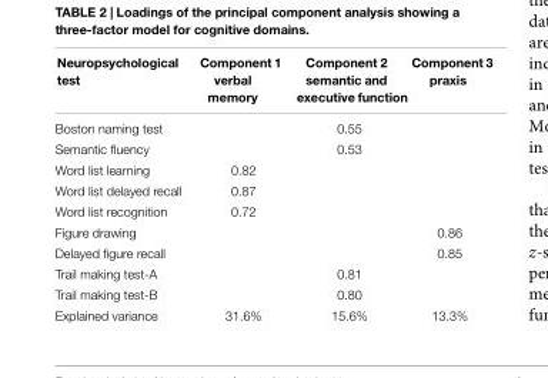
<table><thead><tr><td>Neuropsychological test</td><td>Component 1 verbal memory</td><td>Component 2 semantic and executive function</td><td>Component 3 praxis</td></tr></thead><tbody><tr><td>Boston naming test</td><td></td><td>0.55</td><td></td></tr><tr><td>Semantic fluency</td><td></td><td>0.53</td><td></td></tr><tr><td>Word list learning</td><td>0.82</td><td></td><td></td></tr><tr><td>Word list delayed recall</td><td>0.87</td><td></td><td></td></tr><tr><td>Word list recognition</td><td>0.72</td><td></td><td></td></tr><tr><td>Figure drawing</td><td></td><td></td><td>0.86</td></tr><tr><td>Delayed figure recall</td><td></td><td></td><td>0.85</td></tr><tr><td>Trail making test-A</td><td></td><td>0.81</td><td></td></tr><tr><td>Trail making test-B</td><td></td><td>0.80</td><td></td></tr><tr><td>Explained variance</td><td>31.6%</td><td>15.6%</td><td>13.3%</td></tr></tbody></table>